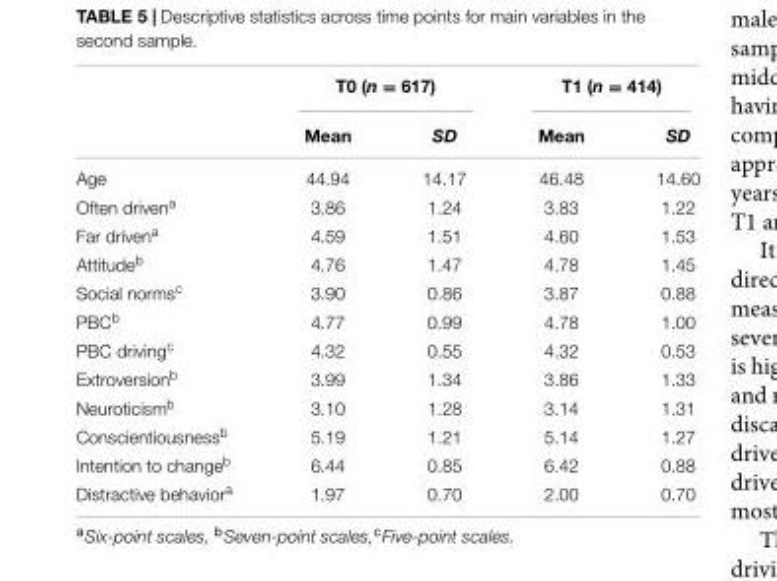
<table><thead><tr><td rowspan="2"></td><td colspan="2">T0 (n = 617)</td><td colspan="2">T1 (n = 414)</td></tr><tr><td>Mean</td><td>SD</td><td>Mean</td><td>SD</td></tr></thead><tbody><tr><td>Age</td><td>44.94</td><td>14.17</td><td>46.48</td><td>14.60</td></tr><tr><td>Often driven<sup>a</sup></td><td>3.86</td><td>1.24</td><td>3.83</td><td>1.22</td></tr><tr><td>Far driven<sup>a</sup></td><td>4.59</td><td>1.51</td><td>4.60</td><td>1.53</td></tr><tr><td>Attitude<sup>b</sup></td><td>4.76</td><td>1.47</td><td>4.78</td><td>1.45</td></tr><tr><td>Social norms<sup>c</sup></td><td>3.90</td><td>0.86</td><td>3.87</td><td>0.88</td></tr><tr><td>PBC<sup>b</sup></td><td>4.77</td><td>0.99</td><td>4.78</td><td>1.00</td></tr><tr><td>PBC driving<sup>c</sup></td><td>4.32</td><td>0.55</td><td>4.32</td><td>0.53</td></tr><tr><td>Extroversion<sup>b</sup></td><td>3.99</td><td>1.34</td><td>3.86</td><td>1.33</td></tr><tr><td>Neuroticism<sup>b</sup></td><td>3.10</td><td>1.28</td><td>3.14</td><td>1.31</td></tr><tr><td>Conscientiousness<sup>b</sup></td><td>5.19</td><td>1.21</td><td>5.14</td><td>1.27</td></tr><tr><td>Intention to change<sup>b</sup></td><td>6.44</td><td>0.85</td><td>6.42</td><td>0.88</td></tr><tr><td>Distractive behavior<sup>a</sup></td><td>1.97</td><td>0.70</td><td>2.00</td><td>0.70</td></tr></tbody></table>